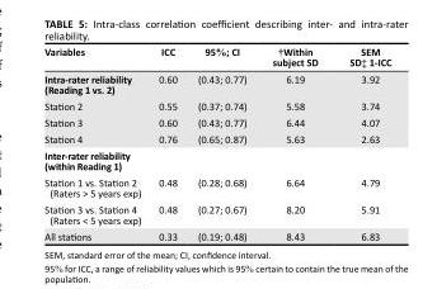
<table><thead><tr><td>Variables</td><td>ICC</td><td>95%; CI</td><td>†Within subject SD</td><td>SEM SD‡ 1-ICC</td></tr></thead><tbody><tr><td>Intra-rater reliability (Reading 1 vs. 2)</td><td>0.60</td><td>(0.43; 0.77)</td><td>6.19</td><td>3.92</td></tr><tr><td>Station 2</td><td>0.55</td><td>(0.37; 0.74)</td><td>5.58</td><td>3.74</td></tr><tr><td>Station 3</td><td>0.60</td><td>(0.43; 0.77)</td><td>6.44</td><td>4.07</td></tr><tr><td>Station 4</td><td>0.76</td><td>(0.65; 0.87)</td><td>5.63</td><td>2.63</td></tr><tr><td colspan="5">Inter-rater reliability (within Reading 1)</td></tr><tr><td>Station 1 vs. Station 2 (Raters &gt; 5 years exp)</td><td>0.48</td><td>(0.28; 0.68)</td><td>6.64</td><td>4.79</td></tr><tr><td>Station 3 vs. Station 4 (Raters &lt; 5 years exp)</td><td>0.48</td><td>(0.27; 0.67)</td><td>8.20</td><td>5.91</td></tr><tr><td>All stations</td><td>0.33</td><td>(0.19; 0.48)</td><td>8.43</td><td>6.83</td></tr></tbody></table>